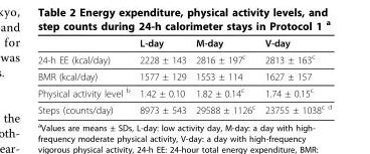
<table><thead><tr><td></td><td>L-day</td><td>M-day</td><td>V-day</td></tr></thead><tbody><tr><td>24-h EE (kcal/day)</td><td>2228 ± 143</td><td>2816 ± 197<sup>c</sup></td><td>2813 ± 163<sup>c</sup></td></tr><tr><td>BMR (kcal/day)</td><td>1577 ± 129</td><td>1553 ± 114</td><td>1627 ± 157</td></tr><tr><td>Physical activity level <sup>b</sup></td><td>1.42 ± 0.10</td><td>1.82 ± 0.14<sup>c</sup></td><td>1.74 ± 0.15<sup>c</sup></td></tr><tr><td>Steps (counts/day)</td><td>8973 ± 543</td><td>29588 ± 1126<sup>c</sup></td><td>23755 ± 1038<sup>c d</sup></td></tr></tbody></table>